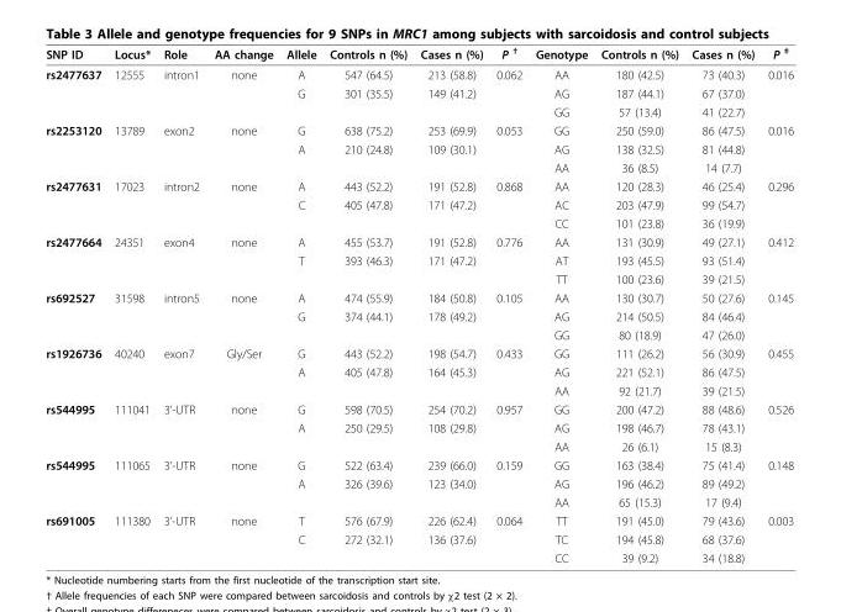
<table><thead><tr><td>SNP ID</td><td>Locus*</td><td>Role</td><td>AA change</td><td>Allele</td><td>Controls n (%)</td><td>Cases n (%)</td><td>P <sup>†</sup></td><td>Genotype</td><td>Controls n (%)</td><td>Cases n (%)</td><td>P <sup>‡</sup></td></tr></thead><tbody><tr><td rowspan="3">rs2477637</td><td>12555</td><td>intron1</td><td>none</td><td>A</td><td>547 (64.5)</td><td>213 (58.8)</td><td>0.062</td><td>AA</td><td>180 (42.5)</td><td>73 (40.3)</td><td>0.016</td></tr><tr><td></td><td></td><td></td><td>G</td><td>301 (35.5)</td><td>149 (41.2)</td><td></td><td>AG</td><td>187 (44.1)</td><td>67 (37.0)</td><td></td></tr><tr><td></td><td></td><td></td><td></td><td></td><td></td><td></td><td>GG</td><td>57 (13.4)</td><td>41 (22.7)</td><td></td></tr><tr><td rowspan="3">rs2253120</td><td>13789</td><td>exon2</td><td>none</td><td>G</td><td>638 (75.2)</td><td>253 (69.9)</td><td>0.053</td><td>GG</td><td>250 (59.0)</td><td>86 (47.5)</td><td>0.016</td></tr><tr><td></td><td></td><td></td><td>A</td><td>210 (24.8)</td><td>109 (30.1)</td><td></td><td>AG</td><td>138 (32.5)</td><td>81 (44.8)</td><td></td></tr><tr><td></td><td></td><td></td><td></td><td></td><td></td><td></td><td>AA</td><td>36 (8.5)</td><td>14 (7.7)</td><td></td></tr><tr><td rowspan="3">rs2477631</td><td>17023</td><td>intron2</td><td>none</td><td>A</td><td>443 (52.2)</td><td>191 (52.8)</td><td>0.868</td><td>AA</td><td>120 (28.3)</td><td>46 (25.4)</td><td>0.296</td></tr><tr><td></td><td></td><td></td><td>C</td><td>405 (47.8)</td><td>171 (47.2)</td><td></td><td>AC</td><td>203 (47.9)</td><td>99 (54.7)</td><td></td></tr><tr><td></td><td></td><td></td><td></td><td></td><td></td><td></td><td>CC</td><td>101 (23.8)</td><td>36 (19.9)</td><td></td></tr><tr><td rowspan="3">rs2477664</td><td>24351</td><td>exon4</td><td>none</td><td>A</td><td>455 (53.7)</td><td>191 (52.8)</td><td>0.776</td><td>AA</td><td>131 (30.9)</td><td>49 (27.1)</td><td>0.412</td></tr><tr><td></td><td></td><td></td><td>T</td><td>393 (46.3)</td><td>171 (47.2)</td><td></td><td>AT</td><td>193 (45.5)</td><td>93 (51.4)</td><td></td></tr><tr><td></td><td></td><td></td><td></td><td></td><td></td><td></td><td>TT</td><td>100 (23.6)</td><td>39 (21.5)</td><td></td></tr><tr><td rowspan="3">rs692527</td><td>31598</td><td>intron5</td><td>none</td><td>A</td><td>474 (55.9)</td><td>184 (50.8)</td><td>0.105</td><td>AA</td><td>130 (30.7)</td><td>50 (27.6)</td><td>0.145</td></tr><tr><td></td><td></td><td></td><td>G</td><td>374 (44.1)</td><td>178 (49.2)</td><td></td><td>AG</td><td>214 (50.5)</td><td>84 (46.4)</td><td></td></tr><tr><td></td><td></td><td></td><td></td><td></td><td></td><td></td><td>GG</td><td>80 (18.9)</td><td>47 (26.0)</td><td></td></tr><tr><td rowspan="3">rs1926736</td><td>40240</td><td>exon7</td><td>Gly/Ser</td><td>G</td><td>443 (52.2)</td><td>198 (54.7)</td><td>0.433</td><td>GG</td><td>111 (26.2)</td><td>56 (30.9)</td><td>0.455</td></tr><tr><td></td><td></td><td></td><td>A</td><td>405 (47.8)</td><td>164 (45.3)</td><td></td><td>AG</td><td>221 (52.1)</td><td>86 (47.5)</td><td></td></tr><tr><td></td><td></td><td></td><td></td><td></td><td></td><td></td><td>AA</td><td>92 (21.7)</td><td>39 (21.5)</td><td></td></tr><tr><td rowspan="3">rs544995</td><td>111041</td><td>3’-UTR</td><td>none</td><td>G</td><td>598 (70.5)</td><td>254 (70.2)</td><td>0.957</td><td>GG</td><td>200 (47.2)</td><td>88 (48.6)</td><td>0.526</td></tr><tr><td></td><td></td><td></td><td>A</td><td>250 (29.5)</td><td>108 (29.8)</td><td></td><td>AG</td><td>198 (46.7)</td><td>78 (43.1)</td><td></td></tr><tr><td></td><td></td><td></td><td></td><td></td><td></td><td></td><td>AA</td><td>26 (6.1)</td><td>15 (8.3)</td><td></td></tr><tr><td rowspan="3">rs544995</td><td>111065</td><td>3’-UTR</td><td>none</td><td>G</td><td>522 (63.4)</td><td>239 (66.0)</td><td>0.159</td><td>GG</td><td>163 (38.4)</td><td>75 (41.4)</td><td>0.148</td></tr><tr><td></td><td></td><td></td><td>A</td><td>326 (39.6)</td><td>123 (34.0)</td><td></td><td>AG</td><td>196 (46.2)</td><td>89 (49.2)</td><td></td></tr><tr><td></td><td></td><td></td><td></td><td></td><td></td><td></td><td>AA</td><td>65 (15.3)</td><td>17 (9.4)</td><td></td></tr><tr><td rowspan="3">rs691005</td><td>111380</td><td>3’-UTR</td><td>none</td><td>T</td><td>576 (67.9)</td><td>226 (62.4)</td><td>0.064</td><td>TT</td><td>191 (45.0)</td><td>79 (43.6)</td><td>0.003</td></tr><tr><td></td><td></td><td></td><td>C</td><td>272 (32.1)</td><td>136 (37.6)</td><td></td><td>TC</td><td>194 (45.8)</td><td>68 (37.6)</td><td></td></tr><tr><td></td><td></td><td></td><td></td><td></td><td></td><td></td><td>CC</td><td>39 (9.2)</td><td>34 (18.8)</td><td></td></tr></tbody></table>